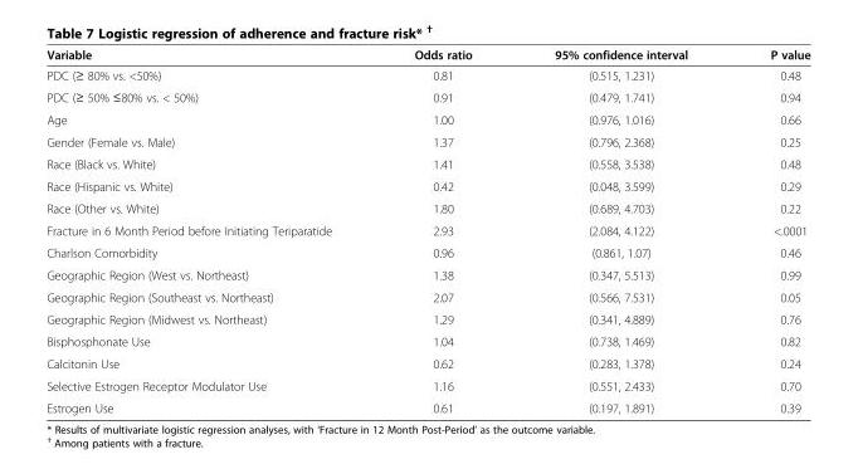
<table><thead><tr><td>Variable</td><td>Odds ratio</td><td>95% confidence interval</td><td>P value</td></tr></thead><tbody><tr><td>PDC (≥ 80% vs. &lt;50%)</td><td>0.81</td><td>(0.515, 1.231)</td><td>0.48</td></tr><tr><td>PDC (≥ 50% ≤80% vs. &lt; 50%)</td><td>0.91</td><td>(0.479, 1.741)</td><td>0.94</td></tr><tr><td>Age</td><td>1.00</td><td>(0.976, 1.016)</td><td>0.66</td></tr><tr><td>Gender (Female vs. Male)</td><td>1.37</td><td>(0.796, 2.368)</td><td>0.25</td></tr><tr><td>Race (Black vs. White)</td><td>1.41</td><td>(0.558, 3.538)</td><td>0.48</td></tr><tr><td>Race (Hispanic vs. White)</td><td>0.42</td><td>(0.048, 3.599)</td><td>0.29</td></tr><tr><td>Race (Other vs. White)</td><td>1.80</td><td>(0.689, 4.703)</td><td>0.22</td></tr><tr><td>Fracture in 6 Month Period before Initiating Teriparatide</td><td>2.93</td><td>(2.084, 4.122)</td><td>&lt;.0001</td></tr><tr><td>Charlson Comorbidity</td><td>0.96</td><td>(0.861, 1.07)</td><td>0.46</td></tr><tr><td>Geographic Region (West vs. Northeast)</td><td>1.38</td><td>(0.347, 5.513)</td><td>0.99</td></tr><tr><td>Geographic Region (Southeast vs. Northeast)</td><td>2.07</td><td>(0.566, 7.531)</td><td>0.05</td></tr><tr><td>Geographic Region (Midwest vs. Northeast)</td><td>1.29</td><td>(0.341, 4.889)</td><td>0.76</td></tr><tr><td>Bisphosphonate Use</td><td>1.04</td><td>(0.738, 1.469)</td><td>0.82</td></tr><tr><td>Calcitonin Use</td><td>0.62</td><td>(0.283, 1.378)</td><td>0.24</td></tr><tr><td>Selective Estrogen Receptor Modulator Use</td><td>1.16</td><td>(0.551, 2.433)</td><td>0.70</td></tr><tr><td>Estrogen Use</td><td>0.61</td><td>(0.197, 1.891)</td><td>0.39</td></tr></tbody></table>